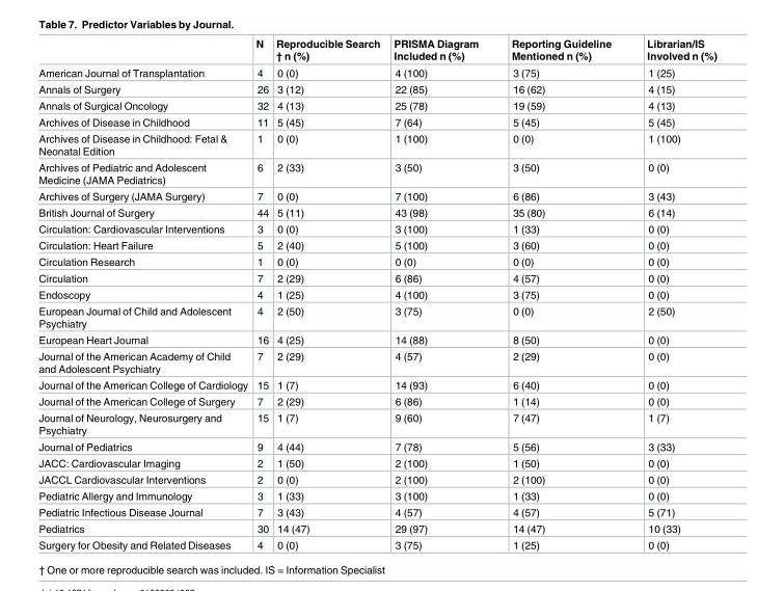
<table><thead><tr><td></td><td>N</td><td>Reproducible Search † n (%)</td><td>PRISMA Diagram Included n (%)</td><td>Reporting Guideline Mentioned n (%)</td><td>Librarian/IS Involved n (%)</td></tr></thead><tbody><tr><td>American Journal of Transplantation</td><td>4</td><td>0 (0)</td><td>4 (100)</td><td>3 (75)</td><td>1 (25)</td></tr><tr><td>Annals of Surgery</td><td>26</td><td>3 (12)</td><td>22 (85)</td><td>16 (62)</td><td>4 (15)</td></tr><tr><td>Annals of Surgical Oncology</td><td>32</td><td>4 (13)</td><td>25 (78)</td><td>19 (59)</td><td>4 (13)</td></tr><tr><td>Archives of Disease in Childhood</td><td>11</td><td>5 (45)</td><td>7 (64)</td><td>5 (45)</td><td>5 (45)</td></tr><tr><td>Archives of Disease in Childhood: Fetal &amp; Neonatal Edition</td><td>1</td><td>0 (0)</td><td>1 (100)</td><td>0 (0)</td><td>1 (100)</td></tr><tr><td>Archives of Pediatric and Adolescent Medicine (JAMA Pediatrics)</td><td>6</td><td>2 (33)</td><td>3 (50)</td><td>3 (50)</td><td>0 (0)</td></tr><tr><td>Archives of Surgery (JAMA Surgery)</td><td>7</td><td>0 (0)</td><td>7 (100)</td><td>6 (86)</td><td>3 (43)</td></tr><tr><td>British Journal of Surgery</td><td>44</td><td>5 (11)</td><td>43 (98)</td><td>35 (80)</td><td>6 (14)</td></tr><tr><td>Circulation: Cardiovascular Interventions</td><td>3</td><td>0 (0)</td><td>3 (100)</td><td>1 (33)</td><td>0 (0)</td></tr><tr><td>Circulation: Heart Failure</td><td>5</td><td>2 (40)</td><td>5 (100)</td><td>3 (60)</td><td>0 (0)</td></tr><tr><td>Circulation Research</td><td>1</td><td>0 (0)</td><td>0 (0)</td><td>0 (0)</td><td>0 (0)</td></tr><tr><td>Circulation</td><td>7</td><td>2 (29)</td><td>6 (86)</td><td>4 (57)</td><td>0 (0)</td></tr><tr><td>Endoscopy</td><td>4</td><td>1 (25)</td><td>4 (100)</td><td>3 (75)</td><td>0 (0)</td></tr><tr><td>European Journal of Child and Adolescent Psychiatry</td><td>4</td><td>2 (50)</td><td>3 (75)</td><td>0 (0)</td><td>2 (50)</td></tr><tr><td>European Heart Journal</td><td>16</td><td>4 (25)</td><td>14 (88)</td><td>8 (50)</td><td>0 (0)</td></tr><tr><td>Journal of the American Academy of Child and Adolescent Psychiatry</td><td>7</td><td>2 (29)</td><td>4 (57)</td><td>2 (29)</td><td>0 (0)</td></tr><tr><td>Journal of the American College of Cardiology</td><td>15</td><td>1 (7)</td><td>14 (93)</td><td>6 (40)</td><td>0 (0)</td></tr><tr><td>Journal of the American College of Surgery</td><td>7</td><td>2 (29)</td><td>6 (86)</td><td>1 (14)</td><td>0 (0)</td></tr><tr><td>Journal of Neurology, Neurosurgery and Psychiatry</td><td>15</td><td>1 (7)</td><td>9 (60)</td><td>7 (47)</td><td>1 (7)</td></tr><tr><td>Journal of Pediatrics</td><td>9</td><td>4 (44)</td><td>7 (78)</td><td>5 (56)</td><td>3 (33)</td></tr><tr><td>JACC: Cardiovascular Imaging</td><td>2</td><td>1 (50)</td><td>2 (100)</td><td>1 (50)</td><td>0 (0)</td></tr><tr><td>JACCL Cardiovascular Interventions</td><td>2</td><td>0 (0)</td><td>2 (100)</td><td>2 (100)</td><td>0 (0)</td></tr><tr><td>Pediatric Allergy and Immunology</td><td>3</td><td>1 (33)</td><td>3 (100)</td><td>1 (33)</td><td>0 (0)</td></tr><tr><td>Pediatric Infectious Disease Journal</td><td>7</td><td>3 (43)</td><td>4 (57)</td><td>4 (57)</td><td>5 (71)</td></tr><tr><td>Pediatrics</td><td>30</td><td>14 (47)</td><td>29 (97)</td><td>14 (47)</td><td>10 (33)</td></tr><tr><td>Surgery for Obesity and Related Diseases</td><td>4</td><td>0 (0)</td><td>3 (75)</td><td>1 (25)</td><td>0 (0)</td></tr></tbody></table>